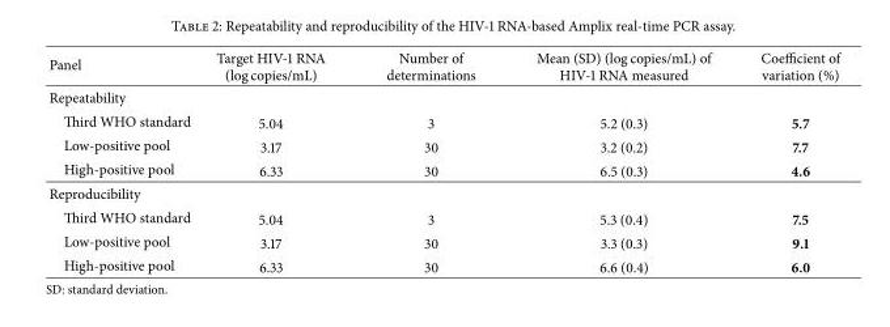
<table><thead><tr><td>Panel</td><td>Target HIV-1 RNA (log copies/mL)</td><td>Number of determinations</td><td>Mean (SD) (log copies/mL) of HIV-1 RNA measured</td><td>Coefficient of variation (%)</td></tr></thead><tbody><tr><td colspan="5">Repeatability</td></tr><tr><td>Third WHO standard</td><td>5.04</td><td>3</td><td>5.2 (0.3)</td><td>5.7</td></tr><tr><td>Low-positive pool</td><td>3.17</td><td>30</td><td>3.2 (0.2)</td><td>7.7</td></tr><tr><td>High-positive pool</td><td>6.33</td><td>30</td><td>6.5 (0.3)</td><td>4.6</td></tr><tr><td colspan="5">Reproducibility</td></tr><tr><td>Third WHO standard</td><td>5.04</td><td>3</td><td>5.3 (0.4)</td><td>7.5</td></tr><tr><td>Low-positive pool</td><td>3.17</td><td>30</td><td>3.3 (0.3)</td><td>9.1</td></tr><tr><td>High-positive pool</td><td>6.33</td><td>30</td><td>6.6 (0.4)</td><td>6.0</td></tr></tbody></table>